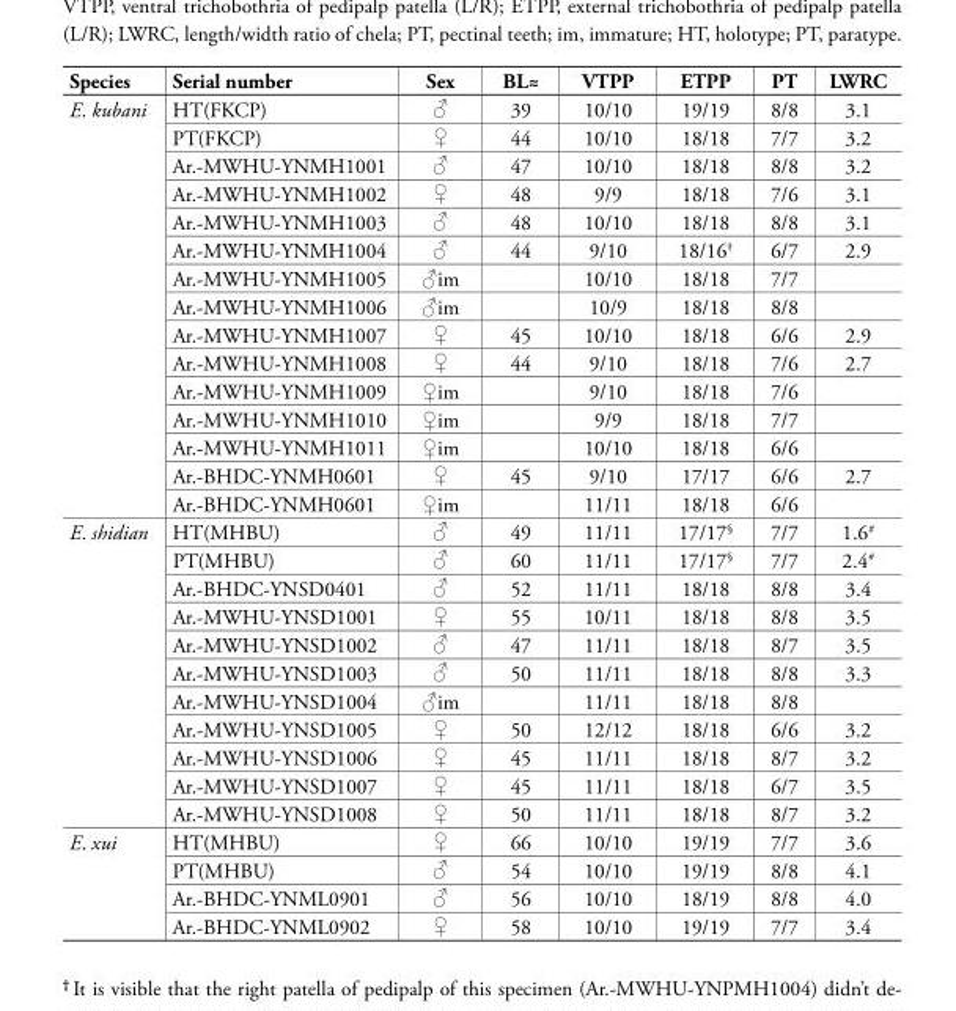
<table><thead><tr><td>Species</td><td>Serial number</td><td>Sex</td><td>BL≈</td><td>VTPP</td><td>ETPP</td><td>PT</td><td>LWRC</td></tr></thead><tbody><tr><td rowspan="15">E. kubani</td><td>HT(FKCP)</td><td>♂</td><td>39</td><td>10/10</td><td>19/19</td><td>8/8</td><td>3.1</td></tr><tr><td>PT(FKCP)</td><td>♀</td><td>44</td><td>10/10</td><td>18/18</td><td>7/7</td><td>3.2</td></tr><tr><td>Ar.-MWHU-YNMH1001</td><td>♂</td><td>47</td><td>10/10</td><td>18/18</td><td>8/8</td><td>3.2</td></tr><tr><td>Ar.-MWHU-YNMH1002</td><td>♀</td><td>48</td><td>9/9</td><td>18/18</td><td>7/6</td><td>3.1</td></tr><tr><td>Ar.-MWHU-YNMH1003</td><td>♂</td><td>48</td><td>10/10</td><td>18/18</td><td>8/8</td><td>3.1</td></tr><tr><td>Ar.-MWHU-YNMH1004</td><td>♂</td><td>44</td><td>9/10</td><td>18/16†</td><td>6/7</td><td>2.9</td></tr><tr><td>Ar.-MWHU-YNMH1005</td><td>♂im</td><td></td><td>10/10</td><td>18/18</td><td>7/7</td><td></td></tr><tr><td>Ar.-MWHU-YNMH1006</td><td>♂im</td><td></td><td>10/9</td><td>18/18</td><td>8/8</td><td></td></tr><tr><td>Ar.-MWHU-YNMH1007</td><td>♀</td><td>45</td><td>10/10</td><td>18/18</td><td>6/6</td><td>2.9</td></tr><tr><td>Ar.-MWHU-YNMH1008</td><td>♀</td><td>44</td><td>9/10</td><td>18/18</td><td>7/6</td><td>2.7</td></tr><tr><td>Ar.-MWHU-YNMH1009</td><td>♀im</td><td></td><td>9/10</td><td>18/18</td><td>7/6</td><td></td></tr><tr><td>Ar.-MWHU-YNMH1010</td><td>♀im</td><td></td><td>9/9</td><td>18/18</td><td>7/7</td><td></td></tr><tr><td>Ar.-MWHU-YNMH1011</td><td>♀im</td><td></td><td>10/10</td><td>18/18</td><td>6/6</td><td></td></tr><tr><td>Ar.-BHDC-YNMH0601</td><td>♀</td><td>45</td><td>9/10</td><td>17/17</td><td>6/6</td><td>2.7</td></tr><tr><td>Ar.-BHDC-YNMH0601</td><td>♀im</td><td></td><td>11/11</td><td>18/18</td><td>6/6</td><td></td></tr><tr><td rowspan="11">E. shidian</td><td>HT(MHBU)</td><td>♂</td><td>49</td><td>11/11</td><td>17/17§</td><td>7/7</td><td>1.6#</td></tr><tr><td>PT(MHBU)</td><td>♂</td><td>60</td><td>11/11</td><td>17/17§</td><td>7/7</td><td>2.4#</td></tr><tr><td>Ar.-BHDC-YNSD0401</td><td>♂</td><td>52</td><td>11/11</td><td>18/18</td><td>8/8</td><td>3.4</td></tr><tr><td>Ar.-MWHU-YNSD1001</td><td>♀</td><td>55</td><td>10/11</td><td>18/18</td><td>8/8</td><td>3.5</td></tr><tr><td>Ar.-MWHU-YNSD1002</td><td>♂</td><td>47</td><td>11/11</td><td>18/18</td><td>8/7</td><td>3.5</td></tr><tr><td>Ar.-MWHU-YNSD1003</td><td>♂</td><td>50</td><td>11/11</td><td>18/18</td><td>8/8</td><td>3.3</td></tr><tr><td>Ar.-MWHU-YNSD1004</td><td>♂im</td><td></td><td>11/11</td><td>18/18</td><td>8/8</td><td></td></tr><tr><td>Ar.-MWHU-YNSD1005</td><td>♀</td><td>50</td><td>12/12</td><td>18/18</td><td>6/6</td><td>3.2</td></tr><tr><td>Ar.-MWHU-YNSD1006</td><td>♀</td><td>45</td><td>11/11</td><td>18/18</td><td>8/7</td><td>3.2</td></tr><tr><td>Ar.-MWHU-YNSD1007</td><td>♀</td><td>45</td><td>11/11</td><td>18/18</td><td>6/7</td><td>3.5</td></tr><tr><td>Ar.-MWHU-YNSD1008</td><td>♀</td><td>50</td><td>11/11</td><td>18/18</td><td>8/7</td><td>3.2</td></tr><tr><td rowspan="4">E. xui</td><td>HT(MHBU)</td><td>♀</td><td>66</td><td>10/10</td><td>19/19</td><td>7/7</td><td>3.6</td></tr><tr><td>PT(MHBU)</td><td>♂</td><td>54</td><td>10/10</td><td>19/19</td><td>8/8</td><td>4.1</td></tr><tr><td>Ar.-BHDC-YNML0901</td><td>♂</td><td>56</td><td>10/10</td><td>18/19</td><td>8/8</td><td>4.0</td></tr><tr><td>Ar.-BHDC-YNML0902</td><td>♀</td><td>58</td><td>10/10</td><td>19/19</td><td>7/7</td><td>3.4</td></tr></tbody></table>